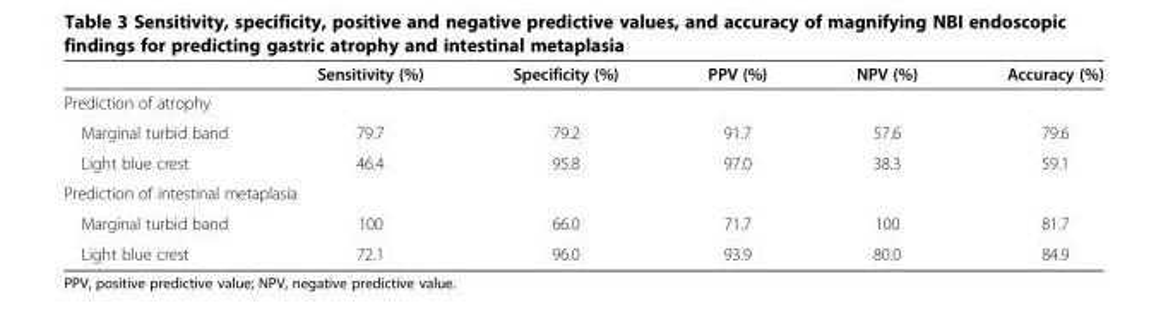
<table><thead><tr><td></td><td>Sensitivity (%)</td><td>Specificity (%)</td><td>PPV (%)</td><td>NPV (%)</td><td>Accuracy (%)</td></tr></thead><tbody><tr><td colspan="6">Prediction of atrophy</td></tr><tr><td>Marginal turbid band</td><td>79.7</td><td>79.2</td><td>91.7</td><td>57.6</td><td>79.6</td></tr><tr><td>Light blue crest</td><td>46.4</td><td>95.8</td><td>97.0</td><td>38.3</td><td>59.1</td></tr><tr><td colspan="6">Prediction of intestinal metaplasia</td></tr><tr><td>Marginal turbid band</td><td>100</td><td>66.0</td><td>71.7</td><td>100</td><td>81.7</td></tr><tr><td>Light blue crest</td><td>72.1</td><td>96.0</td><td>93.9</td><td>80.0</td><td>84.9</td></tr></tbody></table>